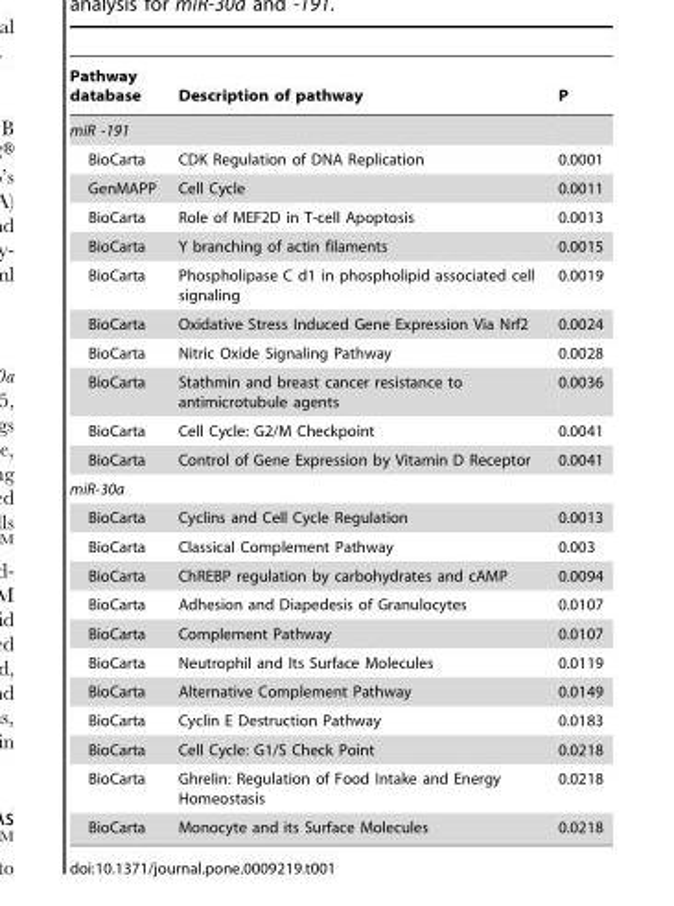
<table><thead><tr><td>Pathway database</td><td>Description of pathway</td><td>P</td></tr></thead><tbody><tr><td colspan="3">miR -191</td></tr><tr><td>BioCarta</td><td>CDK Regulation of DNA Replication</td><td>0.0001</td></tr><tr><td>GenMAPP</td><td>Cell Cycle</td><td>0.0011</td></tr><tr><td>BioCarta</td><td>Role of MEF2D in T-cell Apoptosis</td><td>0.0013</td></tr><tr><td>BioCarta</td><td>Y branching of actin filaments</td><td>0.0015</td></tr><tr><td>BioCarta</td><td>Phospholipase C d1 in phospholipid associated cell signaling</td><td>0.0019</td></tr><tr><td>BioCarta</td><td>Oxidative Stress Induced Gene Expression Via Nrf2</td><td>0.0024</td></tr><tr><td>BioCarta</td><td>Nitric Oxide Signaling Pathway</td><td>0.0028</td></tr><tr><td>BioCarta</td><td>Stathmin and breast cancer resistance to antimicrotubule agents</td><td>0.0036</td></tr><tr><td>BioCarta</td><td>Cell Cycle: G2/M Checkpoint</td><td>0.0041</td></tr><tr><td>BioCarta</td><td>Control of Gene Expression by Vitamin D Receptor</td><td>0.0041</td></tr><tr><td colspan="3">miR-30a</td></tr><tr><td>BioCarta</td><td>Cyclins and Cell Cycle Regulation</td><td>0.0013</td></tr><tr><td>BioCarta</td><td>Classical Complement Pathway</td><td>0.003</td></tr><tr><td>BioCarta</td><td>ChREBP regulation by carbohydrates and cAMP</td><td>0.0094</td></tr><tr><td>BioCarta</td><td>Adhesion and Diapedesis of Granulocytes</td><td>0.0107</td></tr><tr><td>BioCarta</td><td>Complement Pathway</td><td>0.0107</td></tr><tr><td>BioCarta</td><td>Neutrophil and Its Surface Molecules</td><td>0.0119</td></tr><tr><td>BioCarta</td><td>Alternative Complement Pathway</td><td>0.0149</td></tr><tr><td>BioCarta</td><td>Cyclin E Destruction Pathway</td><td>0.0183</td></tr><tr><td>BioCarta</td><td>Cell Cycle: G1/S Check Point</td><td>0.0218</td></tr><tr><td>BioCarta</td><td>Ghrelin: Regulation of Food Intake and Energy Homeostasis</td><td>0.0218</td></tr><tr><td>BioCarta</td><td>Monocyte and its Surface Molecules</td><td>0.0218</td></tr></tbody></table>